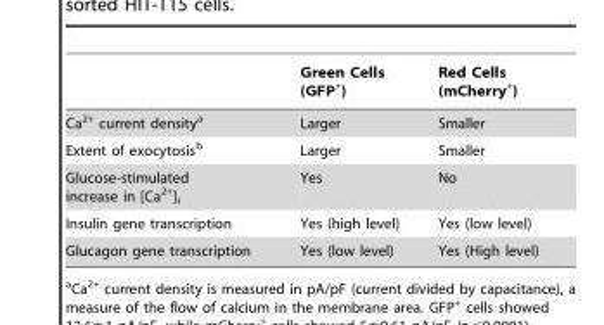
<table><thead><tr><td></td><td>Green Cells (GFP<sup>+</sup>)</td><td>Red Cells (mCherry<sup>+</sup>)</td></tr></thead><tbody><tr><td>Ca<sup>2+</sup> current density<sup>a</sup></td><td>Larger</td><td>Smaller</td></tr><tr><td>Extent of exocytosis<sup>b</sup></td><td>Larger</td><td>Smaller</td></tr><tr><td>Glucose-stimulated increase in [Ca<sup>2+</sup>]<sub>i</sub></td><td>Yes</td><td>No</td></tr><tr><td>Insulin gene transcription</td><td>Yes (high level)</td><td>Yes (low level)</td></tr><tr><td>Glucagon gene transcription</td><td>Yes (low level)</td><td>Yes (High level)</td></tr></tbody></table>